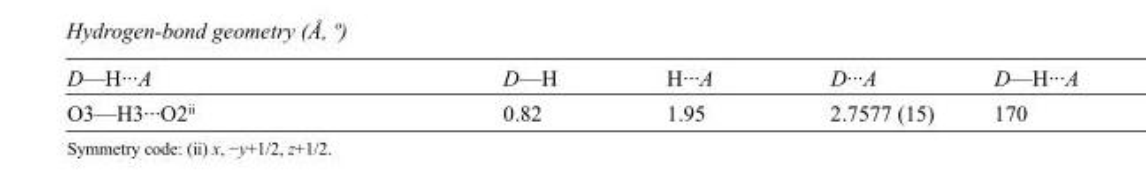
<table><tbody><tr><td>D—H···A</td><td>D—H</td><td>H···A</td><td>D···A</td><td>D—H···A</td></tr><tr><td>O3—H3···O2<sup>ii</sup></td><td>0.82</td><td>1.95</td><td>2.7577 (15)</td><td>170</td></tr></tbody></table>